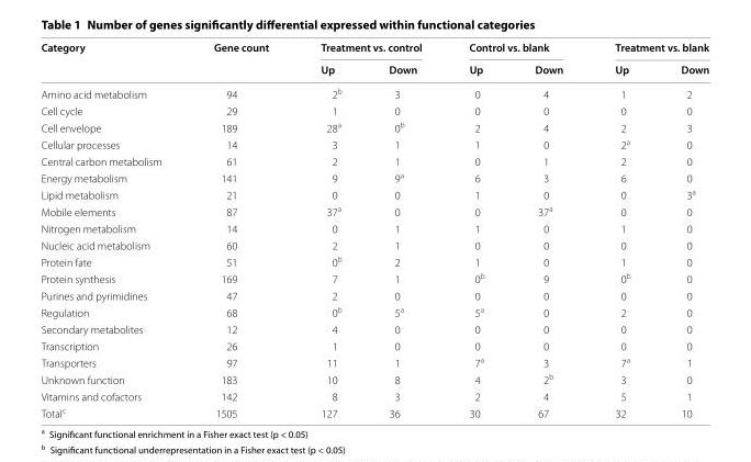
<table><thead><tr><td rowspan="2">Category</td><td rowspan="2">Gene count</td><td colspan="2">Treatment vs. control</td><td colspan="2">Control vs. blank</td><td colspan="2">Treatment vs. blank</td></tr><tr><td>Up</td><td>Down</td><td>Up</td><td>Down</td><td>Up</td><td>Down</td></tr></thead><tbody><tr><td>Amino acid metabolism</td><td>94</td><td>2<sup>b</sup></td><td>3</td><td>0</td><td>4</td><td>1</td><td>2</td></tr><tr><td>Cell cycle</td><td>29</td><td>1</td><td>0</td><td>0</td><td>0</td><td>0</td><td>0</td></tr><tr><td>Cell envelope</td><td>189</td><td>28<sup>a</sup></td><td>0<sup>b</sup></td><td>2</td><td>4</td><td>2</td><td>3</td></tr><tr><td>Cellular processes</td><td>14</td><td>3</td><td>1</td><td>1</td><td>0</td><td>2<sup>a</sup></td><td>0</td></tr><tr><td>Central carbon metabolism</td><td>61</td><td>2</td><td>1</td><td>0</td><td>1</td><td>2</td><td>0</td></tr><tr><td>Energy metabolism</td><td>141</td><td>9</td><td>9<sup>a</sup></td><td>6</td><td>3</td><td>6</td><td>0</td></tr><tr><td>Lipid metabolism</td><td>21</td><td>0</td><td>0</td><td>1</td><td>0</td><td>0</td><td>3<sup>a</sup></td></tr><tr><td>Mobile elements</td><td>87</td><td>37<sup>a</sup></td><td>0</td><td>0</td><td>37<sup>a</sup></td><td>0</td><td>0</td></tr><tr><td>Nitrogen metabolism</td><td>14</td><td>0</td><td>1</td><td>1</td><td>0</td><td>1</td><td>0</td></tr><tr><td>Nucleic acid metabolism</td><td>60</td><td>2</td><td>1</td><td>0</td><td>0</td><td>0</td><td>0</td></tr><tr><td>Protein fate</td><td>51</td><td>0<sup>b</sup></td><td>2</td><td>1</td><td>0</td><td>1</td><td>0</td></tr><tr><td>Protein synthesis</td><td>169</td><td>7</td><td>1</td><td>0<sup>b</sup></td><td>9</td><td>0<sup>b</sup></td><td>0</td></tr><tr><td>Purines and pyrimidines</td><td>47</td><td>2</td><td>0</td><td>0</td><td>0</td><td>0</td><td>0</td></tr><tr><td>Regulation</td><td>68</td><td>0<sup>b</sup></td><td>5<sup>a</sup></td><td>5<sup>a</sup></td><td>0</td><td>2</td><td>0</td></tr><tr><td>Secondary metabolites</td><td>12</td><td>4</td><td>0</td><td>0</td><td>0</td><td>0</td><td>0</td></tr><tr><td>Transcription</td><td>26</td><td>1</td><td>0</td><td>0</td><td>0</td><td>0</td><td>0</td></tr><tr><td>Transporters</td><td>97</td><td>11</td><td>1</td><td>7<sup>a</sup></td><td>3</td><td>7<sup>a</sup></td><td>1</td></tr><tr><td>Unknown function</td><td>183</td><td>10</td><td>8</td><td>4</td><td>2<sup>b</sup></td><td>3</td><td>0</td></tr><tr><td>Vitamins and cofactors</td><td>142</td><td>8</td><td>3</td><td>2</td><td>4</td><td>5</td><td>1</td></tr><tr><td>Total<sup>c</sup></td><td>1505</td><td>127</td><td>36</td><td>30</td><td>67</td><td>32</td><td>10</td></tr></tbody></table>